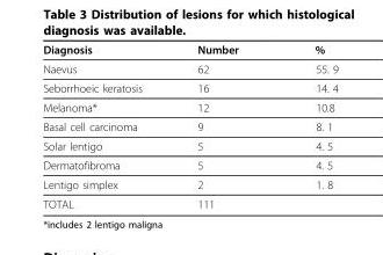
<table><thead><tr><td>Diagnosis</td><td>Number</td><td>%</td></tr></thead><tbody><tr><td>Naevus</td><td>62</td><td>55. 9</td></tr><tr><td>Seborrhoeic keratosis</td><td>16</td><td>14. 4</td></tr><tr><td>Melanoma*</td><td>12</td><td>10.8</td></tr><tr><td>Basal cell carcinoma</td><td>9</td><td>8. 1</td></tr><tr><td>Solar lentigo</td><td>5</td><td>4. 5</td></tr><tr><td>Dermatofibroma</td><td>5</td><td>4. 5</td></tr><tr><td>Lentigo simplex</td><td>2</td><td>1. 8</td></tr><tr><td>TOTAL</td><td>111</td><td></td></tr></tbody></table>